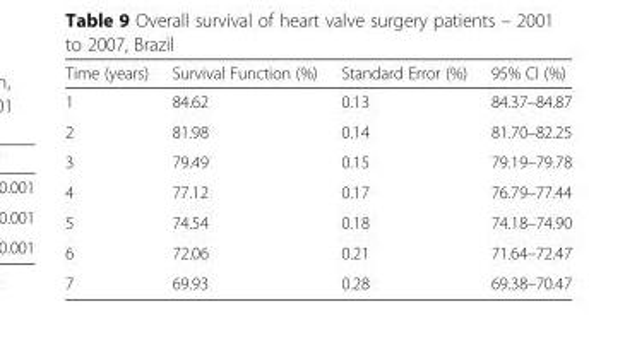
<table><thead><tr><td>Time (years)</td><td>Survival Function (%)</td><td>Standard Error (%)</td><td>95% CI (%)</td></tr></thead><tbody><tr><td>1</td><td>84.62</td><td>0.13</td><td>84.37–84.87</td></tr><tr><td>2</td><td>81.98</td><td>0.14</td><td>81.70–82.25</td></tr><tr><td>3</td><td>79.49</td><td>0.15</td><td>79.19–79.78</td></tr><tr><td>4</td><td>77.12</td><td>0.17</td><td>76.79–77.44</td></tr><tr><td>5</td><td>74.54</td><td>0.18</td><td>74.18–74.90</td></tr><tr><td>6</td><td>72.06</td><td>0.21</td><td>71.64–72.47</td></tr><tr><td>7</td><td>69.93</td><td>0.28</td><td>69.38–70.47</td></tr></tbody></table>